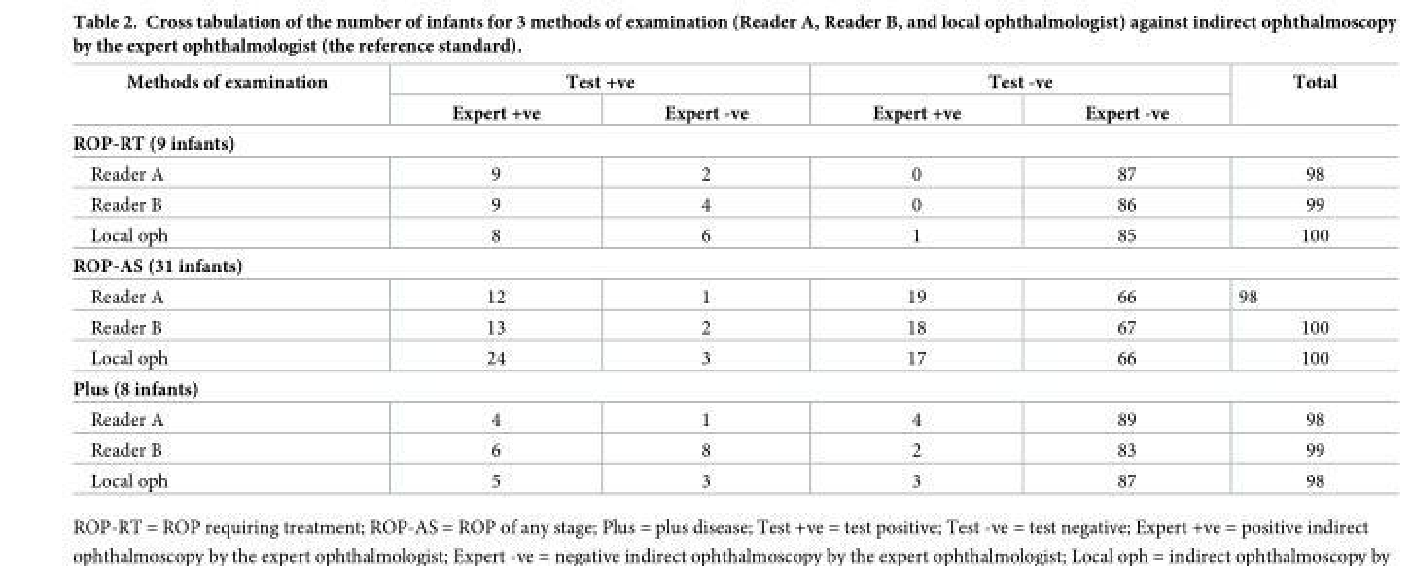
<table><thead><tr><td rowspan="2">Methods of examination</td><td colspan="2">Test +ve</td><td colspan="2">Test -ve</td><td rowspan="2">Total</td></tr><tr><td>Expert +ve</td><td>Expert -ve</td><td>Expert +ve</td><td>Expert -ve</td></tr></thead><tbody><tr><td colspan="6">ROP-RT (9 infants)</td></tr><tr><td>Reader A</td><td>9</td><td>2</td><td>0</td><td>87</td><td>98</td></tr><tr><td>Reader B</td><td>9</td><td>4</td><td>0</td><td>86</td><td>99</td></tr><tr><td>Local oph</td><td>8</td><td>6</td><td>1</td><td>85</td><td>100</td></tr><tr><td colspan="6">ROP-AS (31 infants)</td></tr><tr><td>Reader A</td><td>12</td><td>1</td><td>19</td><td>66</td><td>98</td></tr><tr><td>Reader B</td><td>13</td><td>2</td><td>18</td><td>67</td><td>100</td></tr><tr><td>Local oph</td><td>24</td><td>3</td><td>17</td><td>66</td><td>100</td></tr><tr><td colspan="6">Plus (8 infants)</td></tr><tr><td>Reader A</td><td>4</td><td>1</td><td>4</td><td>89</td><td>98</td></tr><tr><td>Reader B</td><td>6</td><td>8</td><td>2</td><td>83</td><td>99</td></tr><tr><td>Local oph</td><td>5</td><td>3</td><td>3</td><td>87</td><td>98</td></tr></tbody></table>